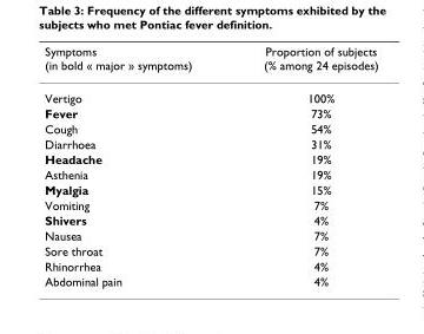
<table><thead><tr><td>Symptoms (in bold « major » symptoms)</td><td>Proportion of subjects (% among 24 episodes)</td></tr></thead><tbody><tr><td>Vertigo</td><td>100%</td></tr><tr><td>Fever</td><td>73%</td></tr><tr><td>Cough</td><td>54%</td></tr><tr><td>Diarrhoea</td><td>31%</td></tr><tr><td>Headache</td><td>19%</td></tr><tr><td>Asthenia</td><td>19%</td></tr><tr><td>Myalgia</td><td>15%</td></tr><tr><td>Vomiting</td><td>7%</td></tr><tr><td>Shivers</td><td>4%</td></tr><tr><td>Nausea</td><td>7%</td></tr><tr><td>Sore throat</td><td>7%</td></tr><tr><td>Rhinorrhea</td><td>4%</td></tr><tr><td>Abdominal pain</td><td>4%</td></tr></tbody></table>